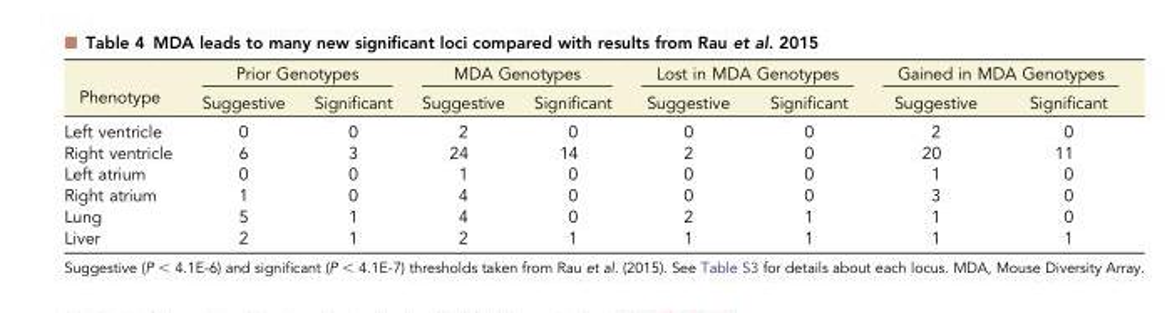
<table><thead><tr><td rowspan="2">Phenotype</td><td colspan="2">Prior Genotypes</td><td colspan="2">MDA Genotypes</td><td colspan="2">Lost in MDA Genotypes</td><td colspan="2">Gained in MDA Genotypes</td></tr><tr><td>Suggestive</td><td>Significant</td><td>Suggestive</td><td>Significant</td><td>Suggestive</td><td>Significant</td><td>Suggestive</td><td>Significant</td></tr></thead><tbody><tr><td>Left ventricle</td><td>0</td><td>0</td><td>2</td><td>0</td><td>0</td><td>0</td><td>2</td><td>0</td></tr><tr><td>Right ventricle</td><td>6</td><td>3</td><td>24</td><td>14</td><td>2</td><td>0</td><td>20</td><td>11</td></tr><tr><td>Left atrium</td><td>0</td><td>0</td><td>1</td><td>0</td><td>0</td><td>0</td><td>1</td><td>0</td></tr><tr><td>Right atrium</td><td>1</td><td>0</td><td>4</td><td>0</td><td>0</td><td>0</td><td>3</td><td>0</td></tr><tr><td>Lung</td><td>5</td><td>1</td><td>4</td><td>0</td><td>2</td><td>1</td><td>1</td><td>0</td></tr><tr><td>Liver</td><td>2</td><td>1</td><td>2</td><td>1</td><td>1</td><td>1</td><td>1</td><td>1</td></tr></tbody></table>